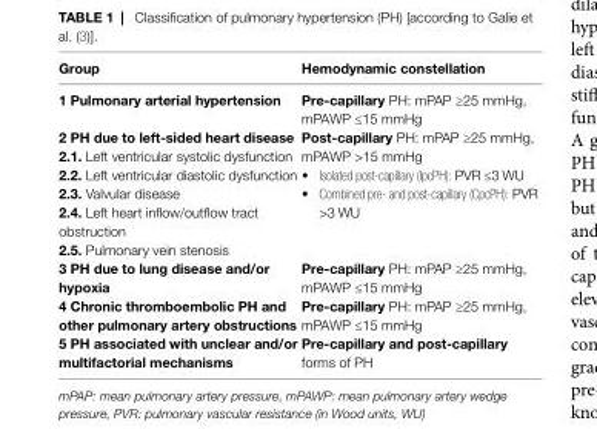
<table><thead><tr><td>group</td><td>Hemodynamic constellation</td></tr></thead><tbody><tr><td>1 Pulmonary arterial hypertension</td><td>Pre-capillary PH: mPAP ≥25 mmHg, mPAWP ≤15 mmHg</td></tr><tr><td>2 PH due to left-sided heart disease 2.1. Left ventricular systolic dysfunction 2.2. Left ventricular diastolic dysfunction 2.3. Valvular disease 2.4. Left heart inflow/outflow tract obstruction 2.5. Pulmonary vein stenosis</td><td>Post-capillary PH: mPAP ≥25 mmHg, mPAWP &gt;15 mmHg • Isolated post-capillary (IpcPH): PVR ≤3 WU • Combined pre- and post-capillary (CpcPH): PVR &gt;3 WU</td></tr><tr><td>3 PH due to lung disease and/or hypoxia</td><td>Pre-capillary PH: mPAP ≥25 mmHg, mPAWP ≤15 mmHg</td></tr><tr><td>4 chronic thromboembolic PH and other pulmonary artery obstructions</td><td>Pre-capillary PH: mPAP ≥25 mmHg, mPAWP ≤15 mmHg</td></tr><tr><td>5 PH associated with unclear and/or multifactorial mechanisms</td><td>Pre-capillary and post-capillary forms of PH</td></tr></tbody></table>